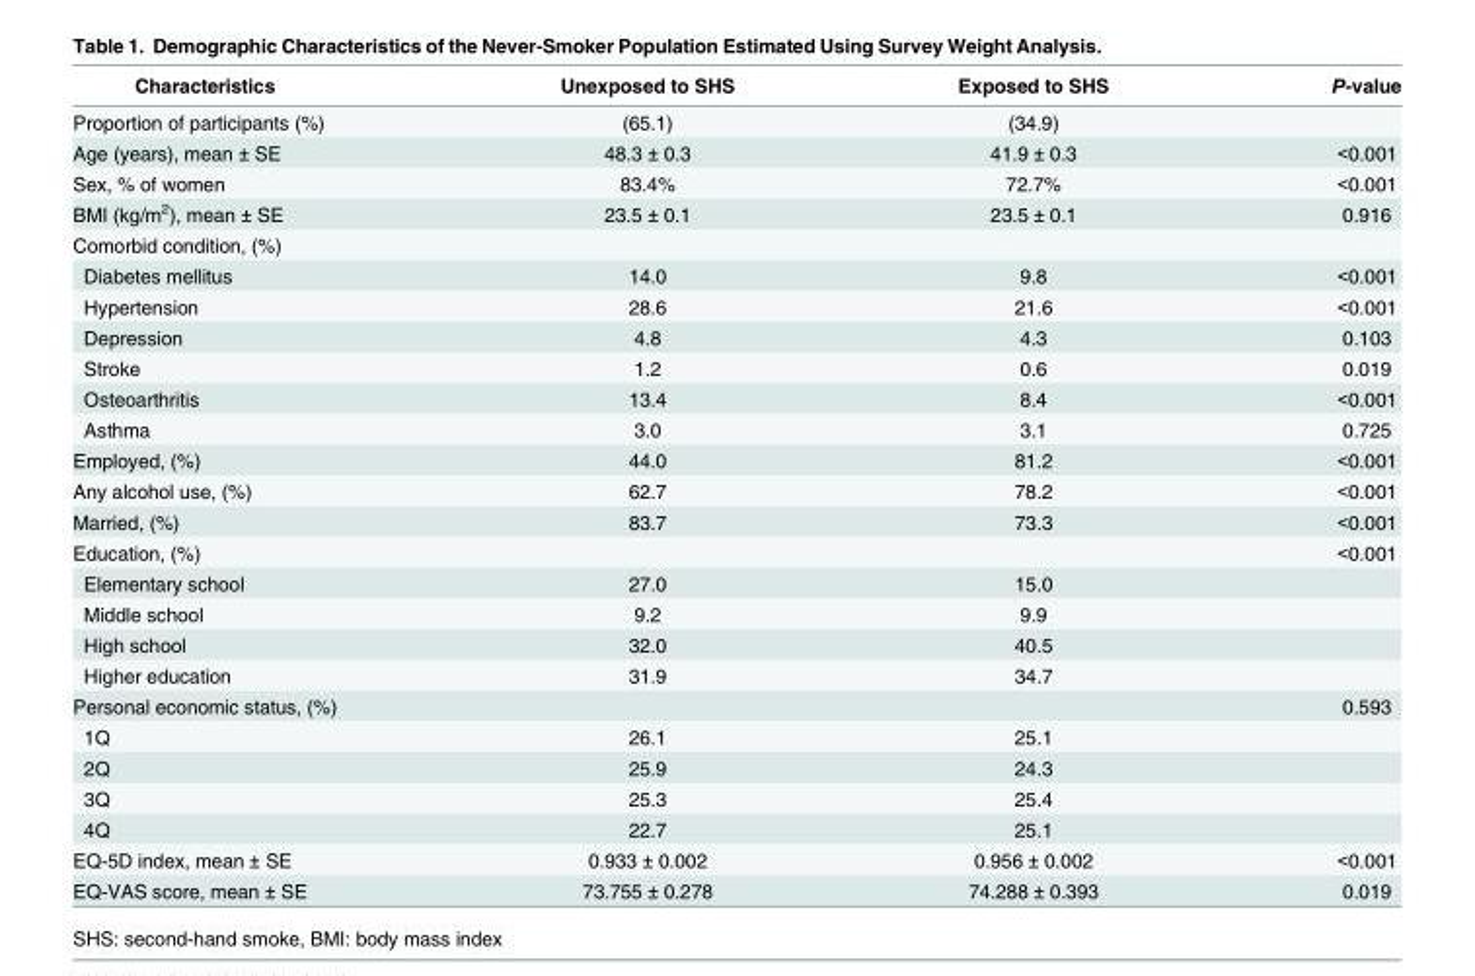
<table><thead><tr><td>Characteristics</td><td>Unexposed to SHS</td><td>Exposed to SHS</td><td>P-value</td></tr></thead><tbody><tr><td>Proportion of participants (%)</td><td>(65.1)</td><td>(34.9)</td><td></td></tr><tr><td>Age (years), mean ± SE</td><td>48.3 ± 0.3</td><td>41.9 ± 0.3</td><td>&lt;0.001</td></tr><tr><td>Sex, % of women</td><td>83.4%</td><td>72.7%</td><td>&lt;0.001</td></tr><tr><td>BMI (kg/m<sup>2</sup>), mean ± SE</td><td>23.5 ± 0.1</td><td>23.5 ± 0.1</td><td>0.916</td></tr><tr><td colspan="4">Comorbid condition, (%)</td></tr><tr><td>Diabetes mellitus</td><td>14.0</td><td>9.8</td><td>&lt;0.001</td></tr><tr><td>Hypertension</td><td>28.6</td><td>21.6</td><td>&lt;0.001</td></tr><tr><td>Depression</td><td>4.8</td><td>4.3</td><td>0.103</td></tr><tr><td>Stroke</td><td>1.2</td><td>0.6</td><td>0.019</td></tr><tr><td>Osteoarthritis</td><td>13.4</td><td>8.4</td><td>&lt;0.001</td></tr><tr><td>Asthma</td><td>3.0</td><td>3.1</td><td>0.725</td></tr><tr><td>Employed, (%)</td><td>44.0</td><td>81.2</td><td>&lt;0.001</td></tr><tr><td>Any alcohol use, (%)</td><td>62.7</td><td>78.2</td><td>&lt;0.001</td></tr><tr><td>Married, (%)</td><td>83.7</td><td>73.3</td><td>&lt;0.001</td></tr><tr><td>Education, (%)</td><td></td><td></td><td>&lt;0.001</td></tr><tr><td>Elementary school</td><td>27.0</td><td>15.0</td><td></td></tr><tr><td>Middle school</td><td>9.2</td><td>9.9</td><td></td></tr><tr><td>High school</td><td>32.0</td><td>40.5</td><td></td></tr><tr><td>Higher education</td><td>31.9</td><td>34.7</td><td></td></tr><tr><td>Personal economic status, (%)</td><td></td><td></td><td>0.593</td></tr><tr><td>1Q</td><td>26.1</td><td>25.1</td><td></td></tr><tr><td>2Q</td><td>25.9</td><td>24.3</td><td></td></tr><tr><td>3Q</td><td>25.3</td><td>25.4</td><td></td></tr><tr><td>4Q</td><td>22.7</td><td>25.1</td><td></td></tr><tr><td>EQ-5D index, mean ± SE</td><td>0.933 ± 0.002</td><td>0.956 ± 0.002</td><td>&lt;0.001</td></tr><tr><td>EQ-VAS score, mean ± SE</td><td>73.755 ± 0.278</td><td>74.288 ± 0.393</td><td>0.019</td></tr></tbody></table>